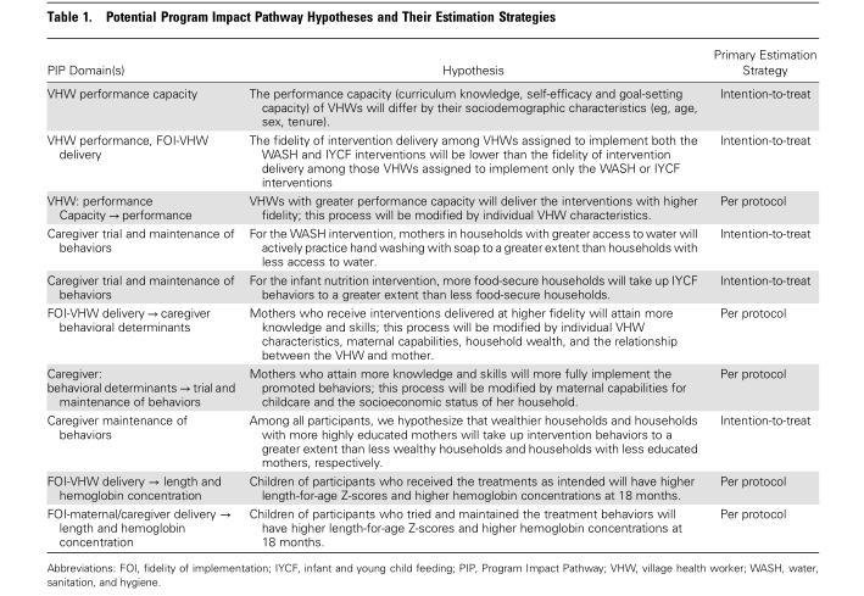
<table><thead><tr><td>PIP Domain(s)</td><td>Hypothesis</td><td>Primary Estimation Strategy</td></tr></thead><tbody><tr><td>VHW performance capacity</td><td>The performance capacity (curriculum knowledge, self-efficacy and goal-setting capacity) of VHWs will differ by their sociodemographic characteristics (eg, age, sex, tenure).</td><td>Intention-to-treat</td></tr><tr><td>VHW performance, FOI-VHW delivery</td><td>The fidelity of intervention delivery among VHWs assigned to implement both the WASH and IYCF interventions will be lower than the fidelity of intervention delivery among those VHWs assigned to implement only the WASH or IYCF interventions</td><td>Intention-to-treat</td></tr><tr><td>VHW: performance Capacity → performance</td><td>VHWs with greater performance capacity will deliver the interventions with higher fidelity; this process will be modified by individual VHW characteristics.</td><td>Per protocol</td></tr><tr><td>Caregiver trial and maintenance of behaviors</td><td>For the WASH intervention, mothers in households with greater access to water will actively practice hand washing with soap to a greater extent than households with less access to water.</td><td>Intention-to-treat</td></tr><tr><td>Caregiver trial and maintenance of behaviors</td><td>For the infant nutrition intervention, more food-secure households will take up IYCF behaviors to a greater extent than less food-secure households.</td><td>Intention-to-treat</td></tr><tr><td>FOI-VHW delivery → caregiver behavioral determinants</td><td>Mothers who receive interventions delivered at higher fidelity will attain more knowledge and skills; this process will be modified by individual VHW characteristics, maternal capabilities, household wealth, and the relationship between the VHW and mother.</td><td>Per protocol</td></tr><tr><td>Caregiver: behavioral determinants → trial and maintenance of behaviors</td><td>Mothers who attain more knowledge and skills will more fully implement the promoted behaviors; this process will be modified by maternal capabilities for childcare and the socioeconomic status of her household.</td><td>Per protocol</td></tr><tr><td>Caregiver maintenance of behaviors</td><td>Among all participants, we hypothesize that wealthier households and households with more highly educated mothers will take up intervention behaviors to a greater extent than less wealthy households and households with less educated mothers, respectively.</td><td>Intention-to-treat</td></tr><tr><td>FOI-VHW delivery → length and hemoglobin concentration</td><td>Children of participants who received the treatments as intended will have higher length-for-age Z-scores and higher hemoglobin concentrations at 18 months.</td><td>Per protocol</td></tr><tr><td>FOI-maternal/caregiver delivery → length and hemoglobin concentration</td><td>Children of participants who tried and maintained the treatment behaviors will have higher length-for-age Z-scores and higher hemoglobin concentrations at 18 months.</td><td>Per protocol</td></tr></tbody></table>